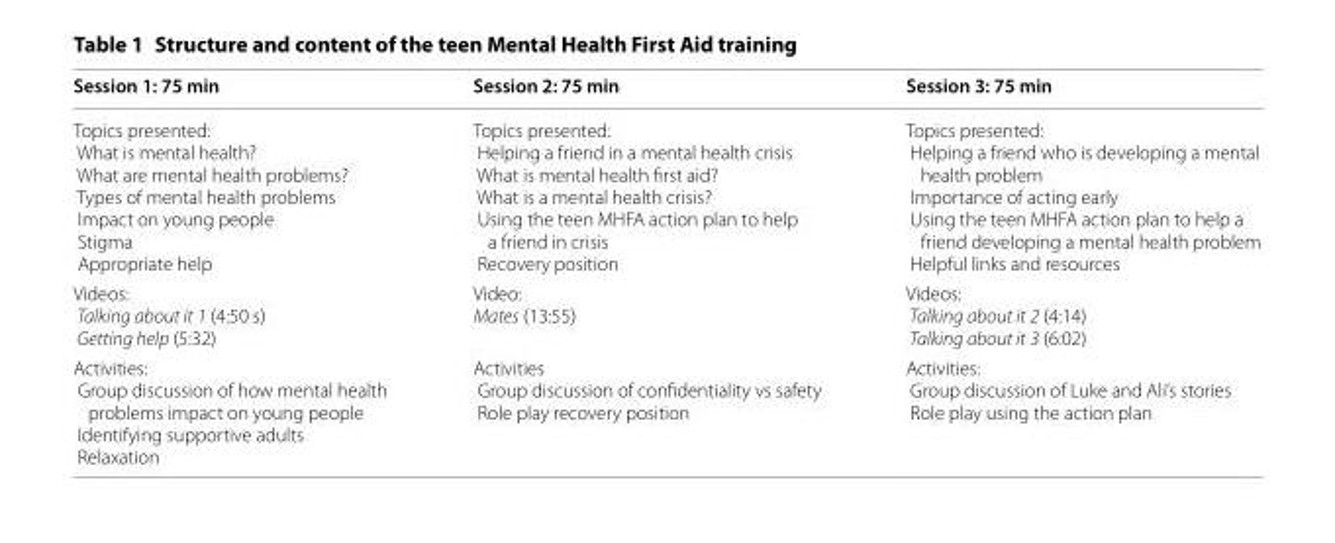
<table><thead><tr><td>Session 1: 75 min</td><td>Session 2: 75 min</td><td>Session 3: 75 min</td></tr></thead><tbody><tr><td>Topics presented: What is mental health? What are mental health problems? Types of mental health problems Impact on young people Stigma Appropriate help</td><td>Topics presented: Helping a friend in a mental health crisis What is mental health first aid? What is a mental health crisis? Using the teen MHFA action plan to help a friend in crisis Recovery position</td><td>Topics presented: Helping a friend who is developing a mental health problem Importance of acting early Using the teen MHFA action plan to help a friend developing a mental health problem Helpful links and resources</td></tr><tr><td>Videos: Talking about it 1 (4:50 s) Getting help (5:32)</td><td>Video: Mates (13:55)</td><td>Videos: Talking about it 2 (4:14) Talking about it 3 (6:02)</td></tr><tr><td>Activities: Group discussion of how mental health problems impact on young people Identifying supportive adults Relaxation</td><td>Activities Group discussion of confidentiality vs safety Role play recovery position</td><td>Activities: Group discussion of Luke and Ali’s stories Role play using the action plan</td></tr></tbody></table>